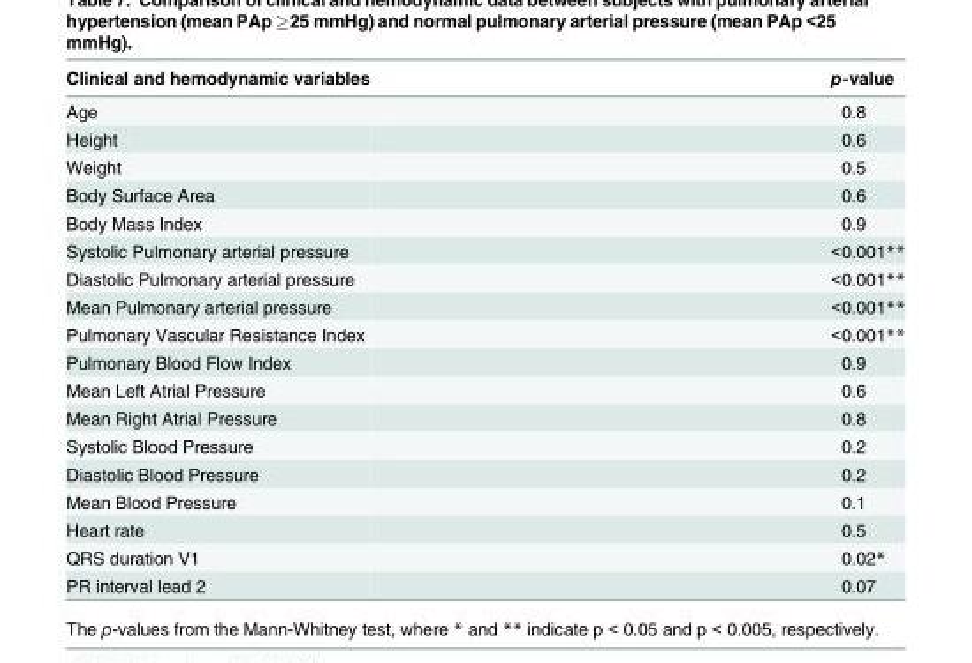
<table><thead><tr><td>Clinical and hemodynamic variables</td><td>p-value</td></tr></thead><tbody><tr><td>Age</td><td>0.8</td></tr><tr><td>Height</td><td>0.6</td></tr><tr><td>Weight</td><td>0.5</td></tr><tr><td>Body Surface Area</td><td>0.6</td></tr><tr><td>Body Mass Index</td><td>0.9</td></tr><tr><td>Systolic Pulmonary arterial pressure</td><td>&lt;0.001**</td></tr><tr><td>Diastolic Pulmonary arterial pressure</td><td>&lt;0.001**</td></tr><tr><td>Mean Pulmonary arterial pressure</td><td>&lt;0.001**</td></tr><tr><td>Pulmonary Vascular Resistance Index</td><td>&lt;0.001**</td></tr><tr><td>Pulmonary Blood Flow Index</td><td>0.9</td></tr><tr><td>Mean Left Atrial Pressure</td><td>0.6</td></tr><tr><td>Mean Right Atrial Pressure</td><td>0.8</td></tr><tr><td>Systolic Blood Pressure</td><td>0.2</td></tr><tr><td>Diastolic Blood Pressure</td><td>0.2</td></tr><tr><td>Mean Blood Pressure</td><td>0.1</td></tr><tr><td>Heart rate</td><td>0.5</td></tr><tr><td>QRS duration V1</td><td>0.02*</td></tr><tr><td>PR interval lead 2</td><td>0.07</td></tr></tbody></table>